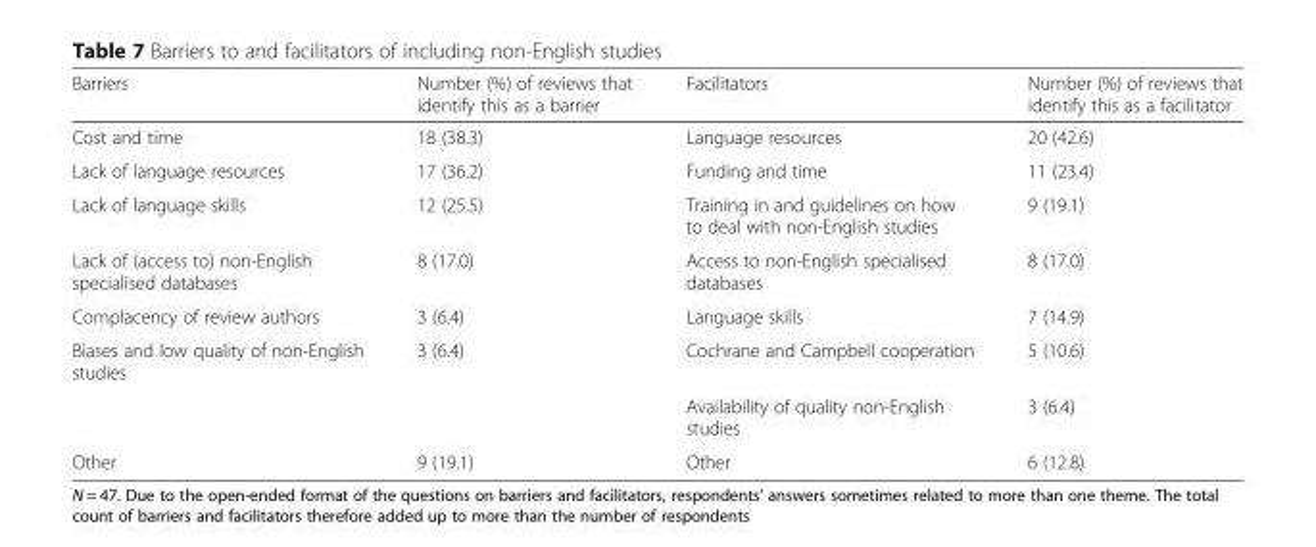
<table><thead><tr><td>Barriers</td><td>Number (%) of reviews that identify this as a barrier</td><td>Facilitators</td><td>Number (%) of reviews that identify this as a facilitator</td></tr></thead><tbody><tr><td>Cost and time</td><td>18 (38.3)</td><td>Language resources</td><td>20 (42.6)</td></tr><tr><td>Lack of language resources</td><td>17 (36.2)</td><td>Funding and time</td><td>11 (23.4)</td></tr><tr><td>Lack of language skills</td><td>12 (25.5)</td><td>Training in and guidelines on how to deal with non-English studies</td><td>9 (19.1)</td></tr><tr><td>Lack of (access to) non-English specialised databases</td><td>8 (17.0)</td><td>Access to non-English specialised databases</td><td>8 (17.0)</td></tr><tr><td>Complacency of review authors</td><td>3 (6.4)</td><td>Language skills</td><td>7 (14.9)</td></tr><tr><td rowspan="2">Biases and low quality of non-English studies</td><td>3 (6.4)</td><td>Cochrane and Campbell cooperation</td><td>5 (10.6)</td></tr><tr><td></td><td>Availability of quality non-English studies</td><td>3 (6.4)</td></tr><tr><td>Other</td><td>9 (19.1)</td><td>Other</td><td>6 (12.8)</td></tr></tbody></table>